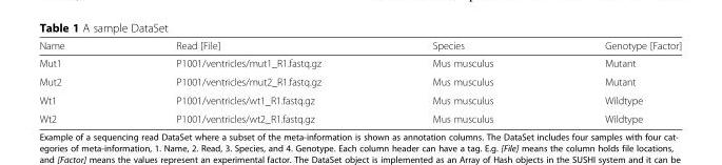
<table><thead><tr><td>Name</td><td>Read [File]</td><td>Species</td><td>Genotype [Factor]</td></tr></thead><tbody><tr><td>Mut1</td><td>P1001/ventricles/mut1_R1.fastq.gz</td><td>Mus musculus</td><td>Mutant</td></tr><tr><td>Mut2</td><td>P1001/ventricles/mut2_R1.fastq.gz</td><td>Mus musculus</td><td>Mutant</td></tr><tr><td>Wt1</td><td>P1001/ventricles/wt1_R1.fastq.gz</td><td>Mus musculus</td><td>Wildtype</td></tr><tr><td>Wt2</td><td>P1001/ventricles/wt2_R1.fastq.gz</td><td>Mus musculus</td><td>Wildtype</td></tr></tbody></table>